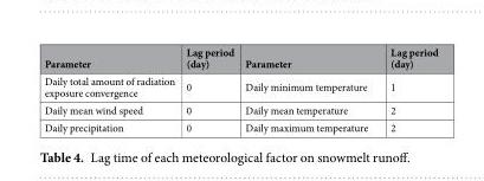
<table><thead><tr><td>Parameter</td><td>Lag period (day)</td><td>Parameter</td><td>Lag period (day)</td></tr></thead><tbody><tr><td>Daily total amount of radiation exposure convergence</td><td>0</td><td>Daily minimum temperature</td><td>1</td></tr><tr><td>Daily mean wind speed</td><td>0</td><td>Daily mean temperature</td><td>2</td></tr><tr><td>Daily precipitation</td><td>0</td><td>Daily maximum temperature</td><td>2</td></tr></tbody></table>